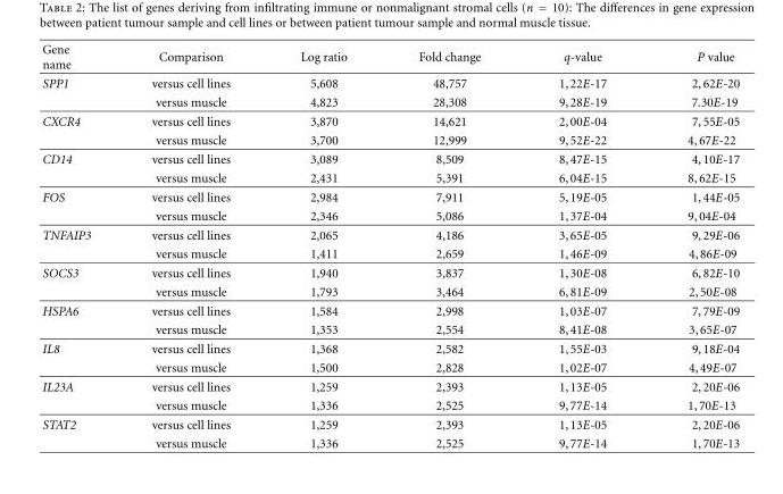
<table><thead><tr><td>Gene name</td><td>Comparison</td><td>Log ratio</td><td>Fold change</td><td>q-value</td><td>P value</td></tr></thead><tbody><tr><td rowspan="2">SPP1</td><td>versus cell lines</td><td>5,608</td><td>48,757</td><td>1,22E-17</td><td>2,62E-20</td></tr><tr><td>versus muscle</td><td>4,823</td><td>28,308</td><td>9,28E-19</td><td>7.30E-19</td></tr><tr><td rowspan="2">CXCR4</td><td>versus cell lines</td><td>3,870</td><td>14,621</td><td>2,00E-04</td><td>7,55E-05</td></tr><tr><td>versus muscle</td><td>3,700</td><td>12,999</td><td>9,52E-22</td><td>4,67E-22</td></tr><tr><td rowspan="2">CD14</td><td>versus cell lines</td><td>3,089</td><td>8,509</td><td>8,47E-15</td><td>4,10E-17</td></tr><tr><td>versus muscle</td><td>2,431</td><td>5,391</td><td>6,04E-15</td><td>8,62E-15</td></tr><tr><td rowspan="2">FOS</td><td>versus cell lines</td><td>2,984</td><td>7,911</td><td>5,19E-05</td><td>1,44E-05</td></tr><tr><td>versus muscle</td><td>2,346</td><td>5,086</td><td>1,37E-04</td><td>9,04E-04</td></tr><tr><td rowspan="2">TNFAIP3</td><td>versus cell lines</td><td>2,065</td><td>4,186</td><td>3,65E-05</td><td>9,29E-06</td></tr><tr><td>versus muscle</td><td>1,411</td><td>2,659</td><td>1,46E-09</td><td>4,86E-09</td></tr><tr><td rowspan="2">SOCS3</td><td>versus cell lines</td><td>1,940</td><td>3,837</td><td>1,30E-08</td><td>6,82E-10</td></tr><tr><td>versus muscle</td><td>1,793</td><td>3,464</td><td>6,81E-09</td><td>2,50E-08</td></tr><tr><td rowspan="2">HSPA6</td><td>versus cell lines</td><td>1,584</td><td>2,998</td><td>1,03E-07</td><td>7,79E-09</td></tr><tr><td>versus muscle</td><td>1,353</td><td>2,554</td><td>8,41E-08</td><td>3,65E-07</td></tr><tr><td rowspan="2">IL8</td><td>versus cell lines</td><td>1,368</td><td>2,582</td><td>1,55E-03</td><td>9,18E-04</td></tr><tr><td>versus muscle</td><td>1,500</td><td>2,828</td><td>1,02E-07</td><td>4,49E-07</td></tr><tr><td rowspan="2">IL23A</td><td>versus cell lines</td><td>1,259</td><td>2,393</td><td>1,13E-05</td><td>2,20E-06</td></tr><tr><td>versus muscle</td><td>1,336</td><td>2,525</td><td>9,77E-14</td><td>1,70E-13</td></tr><tr><td rowspan="2">STAT2</td><td>versus cell lines</td><td>1,259</td><td>2,393</td><td>1,13E-05</td><td>2,20E-06</td></tr><tr><td>versus muscle</td><td>1,336</td><td>2,525</td><td>9,77E-14</td><td>1,70E-13</td></tr></tbody></table>